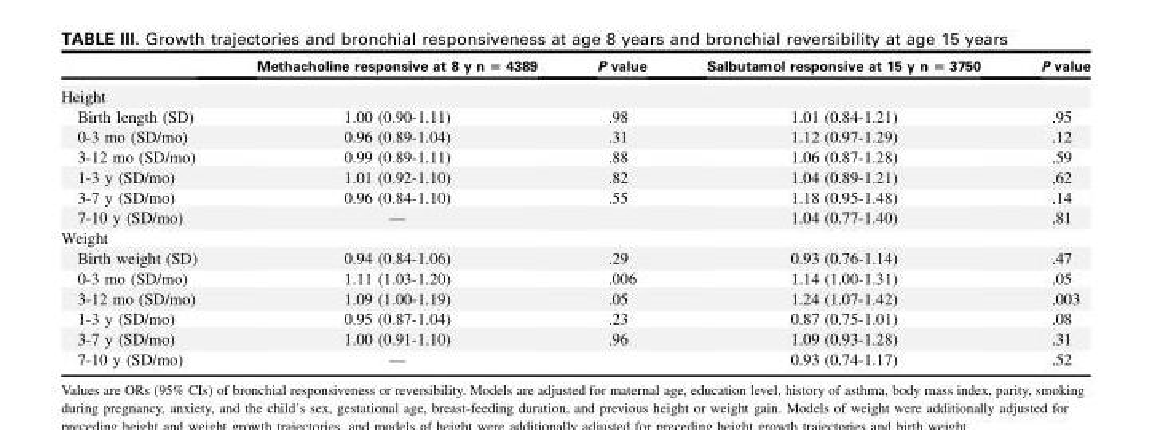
<table><thead><tr><td></td><td>Methacholine responsive at 8 y n = 4389</td><td>P value</td><td>Salbutamol responsive at 15 y n = 3750</td><td>P value</td></tr></thead><tbody><tr><td colspan="5">Height</td></tr><tr><td>Birth length (SD)</td><td>1.00 (0.90-1.11)</td><td>.98</td><td>1.01 (0.84-1.21)</td><td>.95</td></tr><tr><td>0-3 mo (SD/mo)</td><td>0.96 (0.89-1.04)</td><td>.31</td><td>1.12 (0.97-1.29)</td><td>.12</td></tr><tr><td>3-12 mo (SD/mo)</td><td>0.99 (0.89-1.11)</td><td>.88</td><td>1.06 (0.87-1.28)</td><td>.59</td></tr><tr><td>1-3 y (SD/mo)</td><td>1.01 (0.92-1.10)</td><td>.82</td><td>1.04 (0.89-1.21)</td><td>.62</td></tr><tr><td>3-7 y (SD/mo)</td><td>0.96 (0.84-1.10)</td><td>.55</td><td>1.18 (0.95-1.48)</td><td>.14</td></tr><tr><td>7-10 y (SD/mo)</td><td>—</td><td></td><td>1.04 (0.77-1.40)</td><td>.81</td></tr><tr><td colspan="5">Weight</td></tr><tr><td>Birth weight (SD)</td><td>0.94 (0.84-1.06)</td><td>.29</td><td>0.93 (0.76-1.14)</td><td>.47</td></tr><tr><td>0-3 mo (SD/mo)</td><td>1.11 (1.03-1.20)</td><td>.006</td><td>1.14 (1.00-1.31)</td><td>.05</td></tr><tr><td>3-12 mo (SD/mo)</td><td>1.09 (1.00-1.19)</td><td>.05</td><td>1.24 (1.07-1.42)</td><td>.003</td></tr><tr><td>1-3 y (SD/mo)</td><td>0.95 (0.87-1.04)</td><td>.23</td><td>0.87 (0.75-1.01)</td><td>.08</td></tr><tr><td>3-7 y (SD/mo)</td><td>1.00 (0.91-1.10)</td><td>.96</td><td>1.09 (0.93-1.28)</td><td>.31</td></tr><tr><td>7-10 y (SD/mo)</td><td>—</td><td></td><td>0.93 (0.74-1.17)</td><td>.52</td></tr></tbody></table>